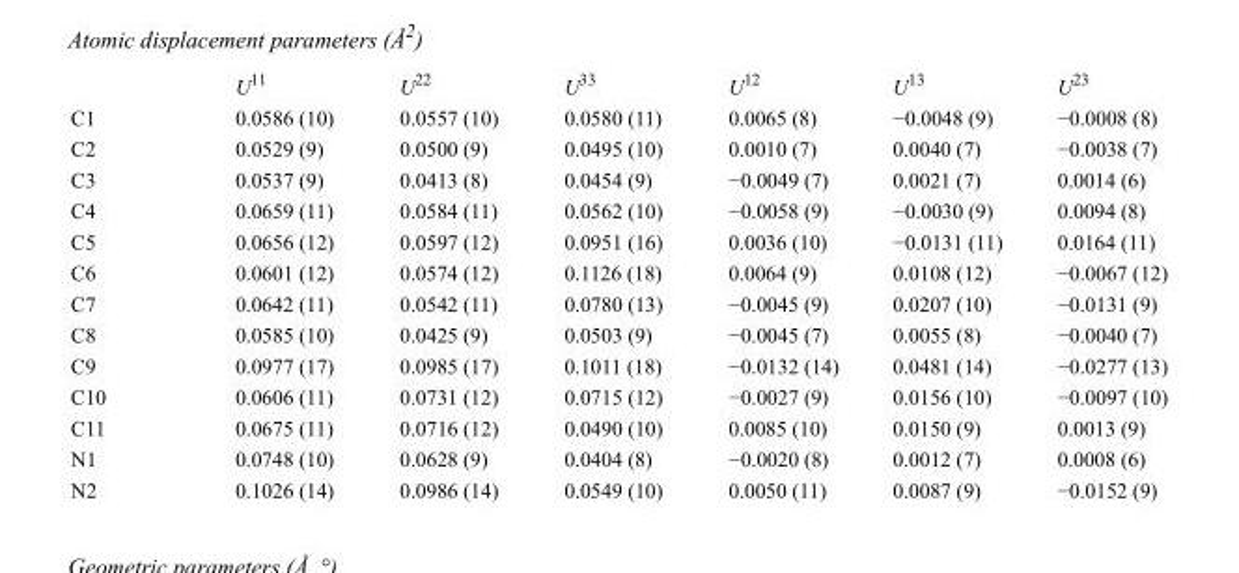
<table><thead><tr><td></td><td>U<sup>11</sup></td><td>U<sup>22</sup></td><td>U<sup>33</sup></td><td>U<sup>12</sup></td><td>U<sup>13</sup></td><td>U<sup>23</sup></td></tr></thead><tbody><tr><td>C1</td><td>0.0586 (10)</td><td>0.0557 (10)</td><td>0.0580 (11)</td><td>0.0065 (8)</td><td>−0.0048 (9)</td><td>−0.0008 (8)</td></tr><tr><td>C2</td><td>0.0529 (9)</td><td>0.0500 (9)</td><td>0.0495 (10)</td><td>0.0010 (7)</td><td>0.0040 (7)</td><td>−0.0038 (7)</td></tr><tr><td>C3</td><td>0.0537 (9)</td><td>0.0413 (8)</td><td>0.0454 (9)</td><td>−0.0049 (7)</td><td>0.0021 (7)</td><td>0.0014 (6)</td></tr><tr><td>C4</td><td>0.0659 (11)</td><td>0.0584 (11)</td><td>0.0562 (10)</td><td>−0.0058 (9)</td><td>−0.0030 (9)</td><td>0.0094 (8)</td></tr><tr><td>C5</td><td>0.0656 (12)</td><td>0.0597 (12)</td><td>0.0951 (16)</td><td>0.0036 (10)</td><td>−0.0131 (11)</td><td>0.0164 (11)</td></tr><tr><td>C6</td><td>0.0601 (12)</td><td>0.0574 (12)</td><td>0.1126 (18)</td><td>0.0064 (9)</td><td>0.0108 (12)</td><td>−0.0067 (12)</td></tr><tr><td>C7</td><td>0.0642 (11)</td><td>0.0542 (11)</td><td>0.0780 (13)</td><td>−0.0045 (9)</td><td>0.0207 (10)</td><td>−0.0131 (9)</td></tr><tr><td>C8</td><td>0.0585 (10)</td><td>0.0425 (9)</td><td>0.0503 (9)</td><td>−0.0045 (7)</td><td>0.0055 (8)</td><td>−0.0040 (7)</td></tr><tr><td>C9</td><td>0.0977 (17)</td><td>0.0985 (17)</td><td>0.1011 (18)</td><td>−0.0132 (14)</td><td>0.0481 (14)</td><td>−0.0277 (13)</td></tr><tr><td>C10</td><td>0.0606 (11)</td><td>0.0731 (12)</td><td>0.0715 (12)</td><td>−0.0027 (9)</td><td>0.0156 (10)</td><td>−0.0097 (10)</td></tr><tr><td>C11</td><td>0.0675 (11)</td><td>0.0716 (12)</td><td>0.0490 (10)</td><td>0.0085 (10)</td><td>0.0150 (9)</td><td>0.0013 (9)</td></tr><tr><td>N1</td><td>0.0748 (10)</td><td>0.0628 (9)</td><td>0.0404 (8)</td><td>−0.0020 (8)</td><td>0.0012 (7)</td><td>0.0008 (6)</td></tr><tr><td>N2</td><td>0.1026 (14)</td><td>0.0986 (14)</td><td>0.0549 (10)</td><td>0.0050 (11)</td><td>0.0087 (9)</td><td>−0.0152 (9)</td></tr></tbody></table>